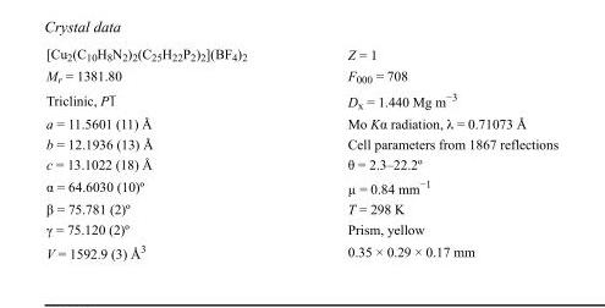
<table><tbody><tr><td>[Cu<sub>2</sub>(C<sub>10</sub>H<sub>8</sub>N<sub>2</sub>)<sub>2</sub>(C<sub>25</sub>H<sub>22</sub>P<sub>2</sub>)<sub>2</sub>](BF<sub>4</sub>)<sub>2</sub></td><td>Z = 1</td></tr><tr><td>M<sub>r</sub> = 1381.80</td><td>F000 = 708</td></tr><tr><td>Triclinic, P1</td><td>D<sub>x</sub> = 1.440 Mg m<sup>−3</sup></td></tr><tr><td>a = 11.5601 (11) Å</td><td>Mo Kα radiation, λ = 0.71073 Å</td></tr><tr><td>b = 12.1936 (13) Å</td><td>Cell parameters from 1867 reflections</td></tr><tr><td>c = 13.1022 (18) Å</td><td>θ = 2.3–22.2º</td></tr><tr><td>α = 64.6030 (10)º</td><td>µ = 0.84 mm<sup>−1</sup></td></tr><tr><td>β = 75.781 (2)º</td><td>T = 298 K</td></tr><tr><td>γ = 75.120 (2)º</td><td>Prism, yellow</td></tr><tr><td>V = 1592.9 (3) Å<sup>3</sup></td><td>0.35 × 0.29 × 0.17 mm</td></tr></tbody></table>